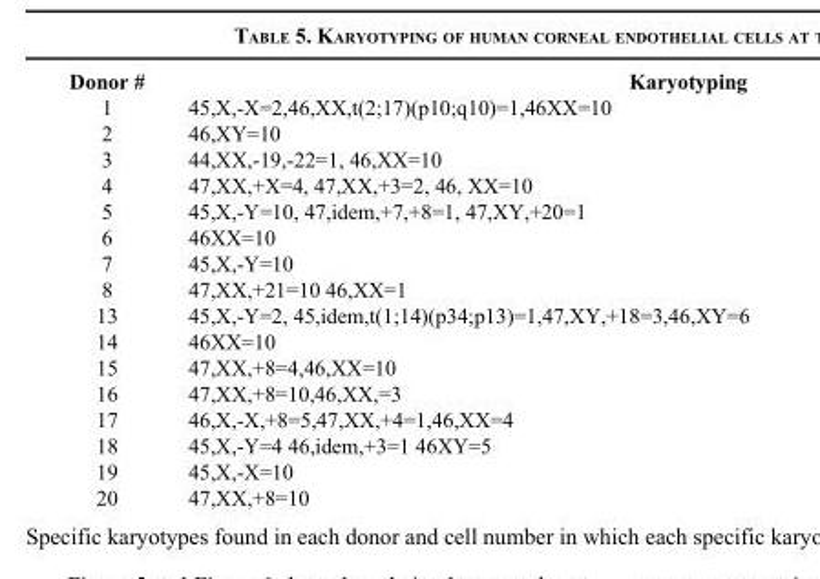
<table><tbody><tr><td>Donor #</td><td>Karyotyping</td></tr><tr><td>1</td><td>45,X,-X=2,46,XX,t(2;17)(p10;q10)=1,46XX=10</td></tr><tr><td>2</td><td>46,XY=10</td></tr><tr><td>3</td><td>44,XX,-19,-22=1, 46,XX=10</td></tr><tr><td>4</td><td>47,XX,+X=4, 47,XX,+3=2, 46, XX=10</td></tr><tr><td>5</td><td>45,X,-Y=10, 47,idem,+7,+8=1, 47,XY,+20=1</td></tr><tr><td>6</td><td>46XX=10</td></tr><tr><td>7</td><td>45,X,-Y=10</td></tr><tr><td>8</td><td>47,XX,+21=10 46,XX=1</td></tr><tr><td>13</td><td>45,X,-Y=2, 45,idem,t(1;14)(p34;p13)=1,47,XY,+18=3,46,XY=6</td></tr><tr><td>14</td><td>46XX=10</td></tr><tr><td>15</td><td>47,XX,+8=4,46,XX=10</td></tr><tr><td>16</td><td>47,XX,+8=10,46,XX,=3</td></tr><tr><td>17</td><td>46,X,-X,+8=5,47,XX,+4=1,46,XX=4</td></tr><tr><td>18</td><td>45,X,-Y=4 46,idem,+3=1 46XY=5</td></tr><tr><td>19</td><td>45,X,-X=10</td></tr><tr><td>20</td><td>47,XX,+8=10</td></tr></tbody></table>